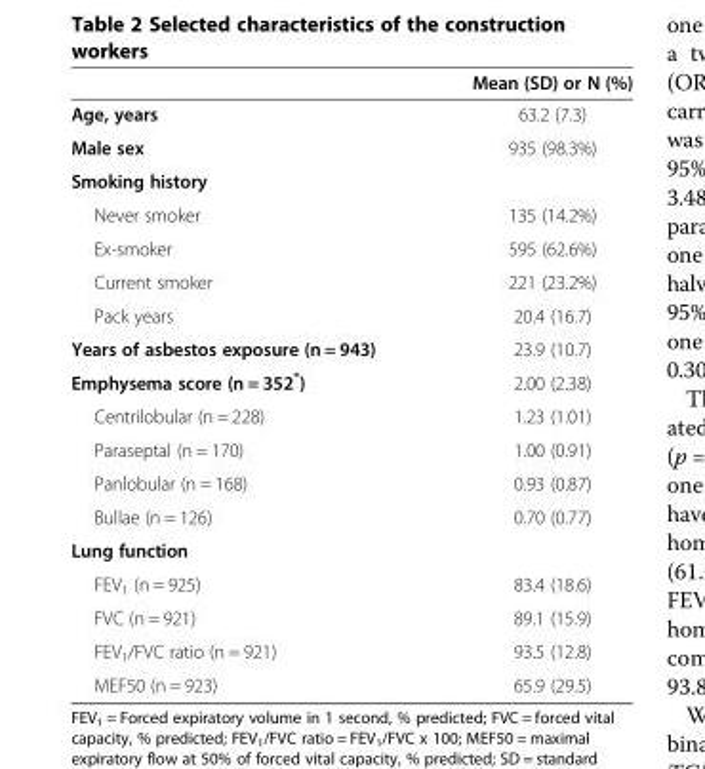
<table><thead><tr><td></td><td>Mean (SD) or N (%)</td></tr></thead><tbody><tr><td>Age, years</td><td>63.2 (7.3)</td></tr><tr><td>Male sex</td><td>935 (98.3%)</td></tr><tr><td colspan="2">Smoking history</td></tr><tr><td>Never smoker</td><td>135 (14.2%)</td></tr><tr><td>Ex-smoker</td><td>595 (62.6%)</td></tr><tr><td>Current smoker</td><td>221 (23.2%)</td></tr><tr><td>Pack years</td><td>20.4 (16.7)</td></tr><tr><td>Years of asbestos exposure (n = 943)</td><td>23.9 (10.7)</td></tr><tr><td>Emphysema score (n = 352*)</td><td>2.00 (2.38)</td></tr><tr><td>Centrilobular (n = 228)</td><td>1.23 (1.01)</td></tr><tr><td>Paraseptal (n = 170)</td><td>1.00 (0.91)</td></tr><tr><td>Panlobular (n = 168)</td><td>0.93 (0.87)</td></tr><tr><td>Bullae (n = 126)</td><td>0.70 (0.77)</td></tr><tr><td colspan="2">Lung function</td></tr><tr><td>FEV<sub>1</sub> (n = 925)</td><td>83.4 (18.6)</td></tr><tr><td>FVC (n = 921)</td><td>89.1 (15.9)</td></tr><tr><td>FEV<sub>1</sub>/FVC ratio (n = 921)</td><td>93.5 (12.8)</td></tr><tr><td>MEF50 (n = 923)</td><td>65.9 (29.5)</td></tr></tbody></table>